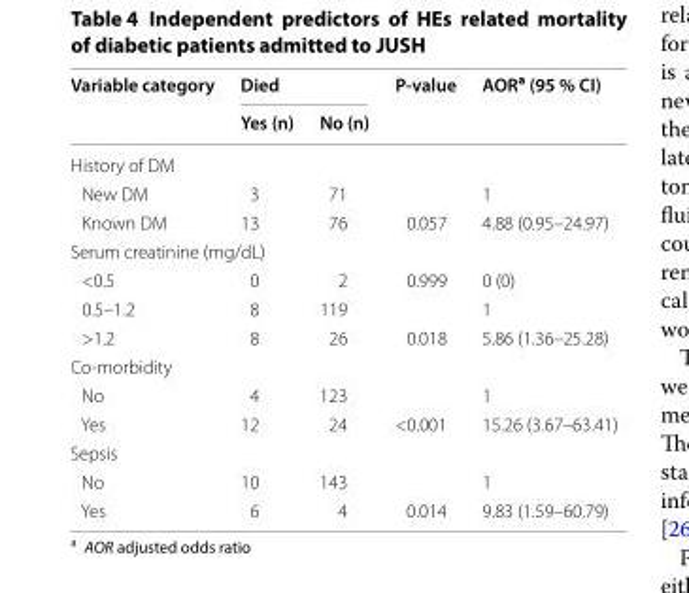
<table><thead><tr><td rowspan="2">Variable category</td><td colspan="2">Died</td><td rowspan="2">P-value</td><td rowspan="2">AOR<sup>a</sup> (95 % CI)</td></tr><tr><td>Yes (n)</td><td>No (n)</td></tr></thead><tbody><tr><td colspan="5">History of DM</td></tr><tr><td>New DM</td><td>3</td><td>71</td><td></td><td>1</td></tr><tr><td>Known DM</td><td>13</td><td>76</td><td>0.057</td><td>4.88 (0.95–24.97)</td></tr><tr><td colspan="5">Serum creatinine (mg/dL)</td></tr><tr><td>&lt;0.5</td><td>0</td><td>2</td><td>0.999</td><td>0 (0)</td></tr><tr><td>0.5–1.2</td><td>8</td><td>119</td><td></td><td>1</td></tr><tr><td>&gt;1.2</td><td>8</td><td>26</td><td>0.018</td><td>5.86 (1.36–25.28)</td></tr><tr><td colspan="5">Co-morbidity</td></tr><tr><td>No</td><td>4</td><td>123</td><td></td><td>1</td></tr><tr><td>Yes</td><td>12</td><td>24</td><td>&lt;0.001</td><td>15.26 (3.67–63.41)</td></tr><tr><td colspan="5">Sepsis</td></tr><tr><td>No</td><td>10</td><td>143</td><td></td><td>1</td></tr><tr><td>Yes</td><td>6</td><td>4</td><td>0.014</td><td>9.83 (1.59–60.79)</td></tr></tbody></table>